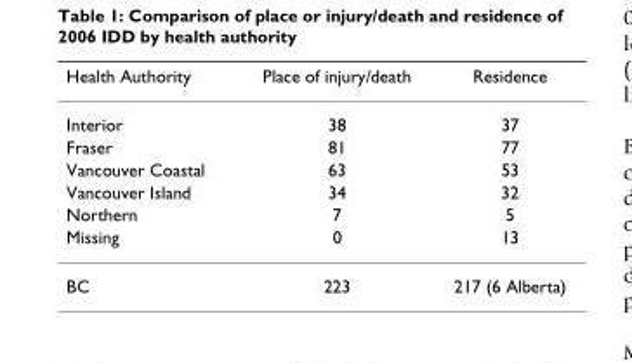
<table><thead><tr><td>Health Authority</td><td>Place of injury/death</td><td>Residence</td></tr></thead><tbody><tr><td>Interior</td><td>38</td><td>37</td></tr><tr><td>Fraser</td><td>81</td><td>77</td></tr><tr><td>Vancouver Coastal</td><td>63</td><td>53</td></tr><tr><td>Vancouver Island</td><td>34</td><td>32</td></tr><tr><td>Northern</td><td>7</td><td>5</td></tr><tr><td>Missing</td><td>0</td><td>13</td></tr><tr><td>BC</td><td>223</td><td>217 (6 Alberta)</td></tr></tbody></table>